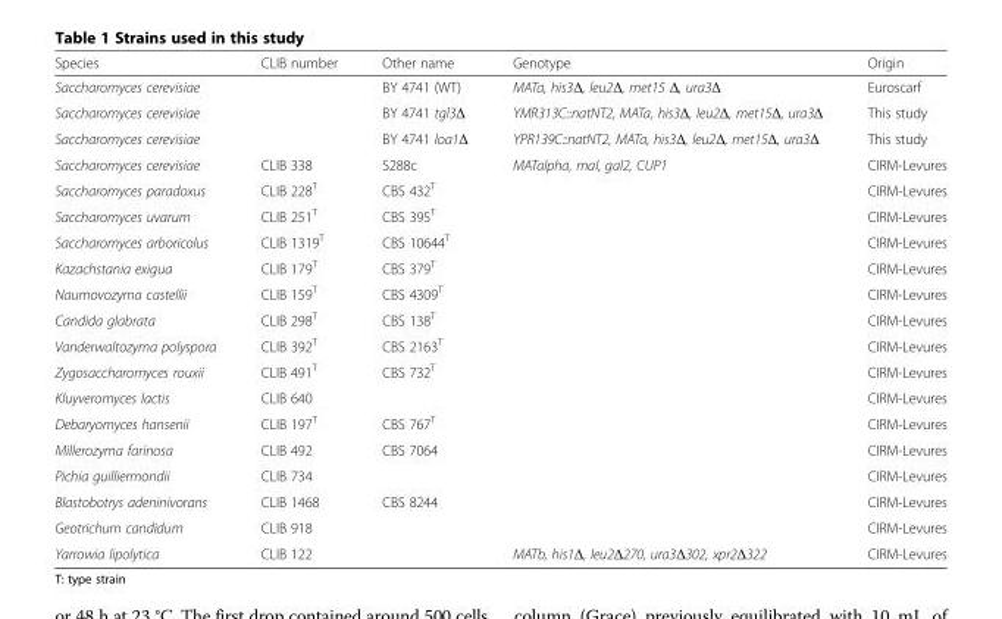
<table><thead><tr><td>Species</td><td>CLIB number</td><td>Other name</td><td>Genotype</td><td>Origin</td></tr></thead><tbody><tr><td>Saccharomyces cerevisiae</td><td></td><td>BY 4741 (WT)</td><td>MATa, his3Δ, leu2Δ, met15 Δ, ura3Δ</td><td>Euroscarf</td></tr><tr><td>Saccharomyces cerevisiae</td><td></td><td>BY 4741 tgl3Δ</td><td>YMR313C::natNT2, MATa, his3Δ, leu2Δ, met15Δ, ura3Δ</td><td>This study</td></tr><tr><td>Saccharomyces cerevisiae</td><td></td><td>BY 4741 loa1Δ</td><td>YPR139C::natNT2, MATa, his3Δ, leu2Δ, met15Δ, ura3Δ</td><td>This study</td></tr><tr><td>Saccharomyces cerevisiae</td><td>CLIB 338</td><td>S288c</td><td>MATalpha, mal, gal2, CUP1</td><td>CIRM-Levures</td></tr><tr><td>Saccharomyces paradoxus</td><td>CLIB 228<sup>T</sup></td><td>CBS 432<sup>T</sup></td><td></td><td>CIRM-Levures</td></tr><tr><td>Saccharomyces uvarum</td><td>CLIB 251<sup>T</sup></td><td>CBS 395<sup>T</sup></td><td></td><td>CIRM-Levures</td></tr><tr><td>Saccharomyces arboricolus</td><td>CLIB 1319<sup>T</sup></td><td>CBS 10644<sup>T</sup></td><td></td><td>CIRM-Levures</td></tr><tr><td>Kazachstania exigua</td><td>CLIB 179<sup>T</sup></td><td>CBS 379<sup>T</sup></td><td></td><td>CIRM-Levures</td></tr><tr><td>Naumovozyma castellii</td><td>CLIB 159<sup>T</sup></td><td>CBS 4309<sup>T</sup></td><td></td><td>CIRM-Levures</td></tr><tr><td>Candida glabrata</td><td>CLIB 298<sup>T</sup></td><td>CBS 138<sup>T</sup></td><td></td><td>CIRM-Levures</td></tr><tr><td>Vanderwaltozyma polyspora</td><td>CLIB 392<sup>T</sup></td><td>CBS 2163<sup>T</sup></td><td></td><td>CIRM-Levures</td></tr><tr><td>Zygosaccharomyces rouxii</td><td>CLIB 491<sup>T</sup></td><td>CBS 732<sup>T</sup></td><td></td><td>CIRM-Levures</td></tr><tr><td>Kluyveromyces lactis</td><td>CLIB 640</td><td></td><td></td><td>CIRM-Levures</td></tr><tr><td>Debaryomyces hansenii</td><td>CLIB 197<sup>T</sup></td><td>CBS 767<sup>T</sup></td><td></td><td>CIRM-Levures</td></tr><tr><td>Millerozyma farinosa</td><td>CLIB 492</td><td>CBS 7064</td><td></td><td>CIRM-Levures</td></tr><tr><td>Pichia guilliermondii</td><td>CLIB 734</td><td></td><td></td><td>CIRM-Levures</td></tr><tr><td>Blastobotrys adeninivorans</td><td>CLIB 1468</td><td>CBS 8244</td><td></td><td>CIRM-Levures</td></tr><tr><td>Geotrichum candidum</td><td>CLIB 918</td><td></td><td></td><td>CIRM-Levures</td></tr><tr><td>Yarrowia lipolytica</td><td>CLIB 122</td><td></td><td>MATb, his1Δ, leu2Δ270, ura3Δ302, xpr2Δ322</td><td>CIRM-Levures</td></tr></tbody></table>